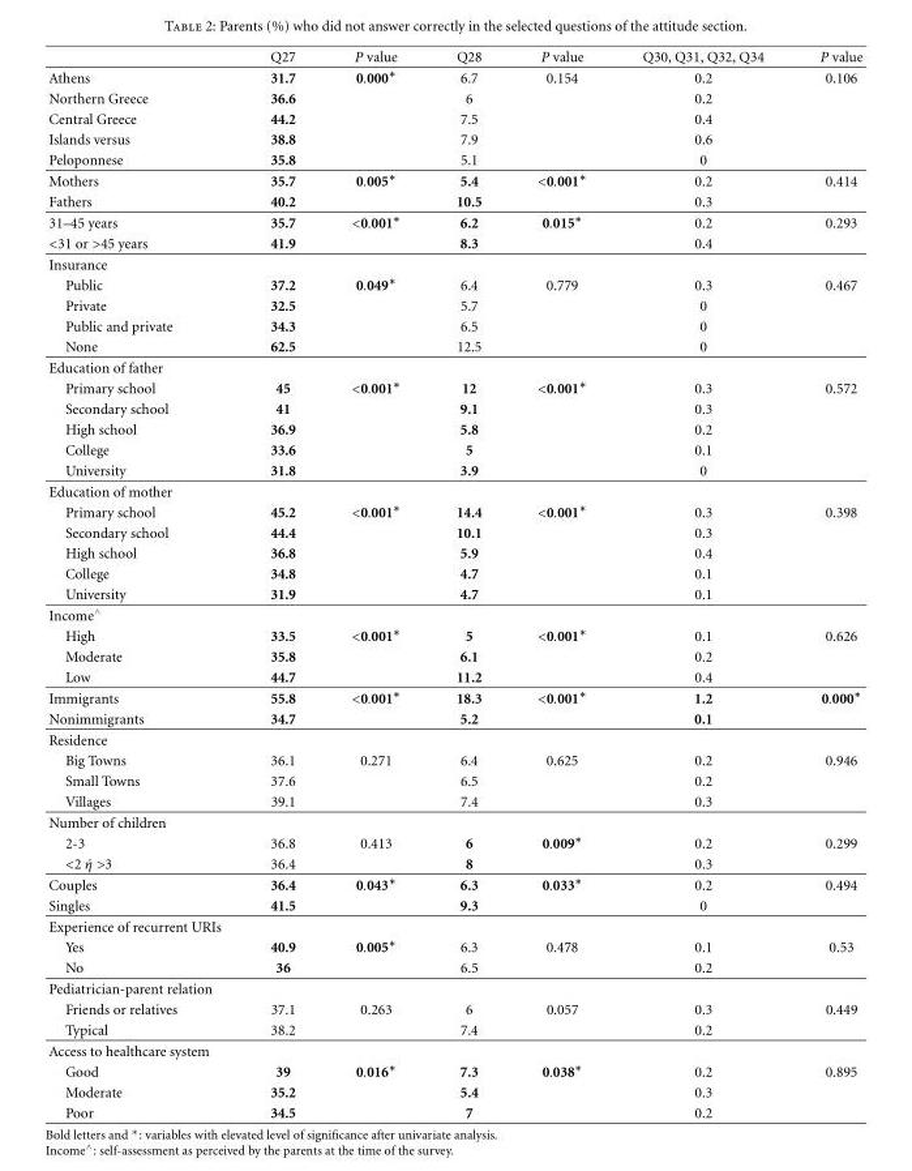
<table><thead><tr><td></td><td>Q27</td><td>P value</td><td>Q28</td><td>P value</td><td>Q30, Q31, Q32, Q34</td><td>P value</td></tr></thead><tbody><tr><td>Athens</td><td>31.7</td><td>0.000∗</td><td>6.7</td><td>0.154</td><td>0.2</td><td>0.106</td></tr><tr><td>Northern Greece</td><td>36.6</td><td></td><td>6</td><td></td><td>0.2</td><td></td></tr><tr><td>Central Greece</td><td>44.2</td><td></td><td>7.5</td><td></td><td>0.4</td><td></td></tr><tr><td>Islands versus</td><td>38.8</td><td></td><td>7.9</td><td></td><td>0.6</td><td></td></tr><tr><td>Peloponnese</td><td>35.8</td><td></td><td>5.1</td><td></td><td>0</td><td></td></tr><tr><td>Mothers</td><td>35.7</td><td>0.005∗</td><td>5.4</td><td>&lt;0.001∗</td><td>0.2</td><td>0.414</td></tr><tr><td>Fathers</td><td>40.2</td><td></td><td>10.5</td><td></td><td>0.3</td><td></td></tr><tr><td>31–45 years</td><td>35.7</td><td>&lt;0.001∗</td><td>6.2</td><td>0.015∗</td><td>0.2</td><td>0.293</td></tr><tr><td>&lt;31 or &gt;45 years</td><td>41.9</td><td></td><td>8.3</td><td></td><td>0.4</td><td></td></tr><tr><td colspan="7">Insurance</td></tr><tr><td>Public</td><td>37.2</td><td>0.049∗</td><td>6.4</td><td>0.779</td><td>0.3</td><td>0.467</td></tr><tr><td>Private</td><td>32.5</td><td></td><td>5.7</td><td></td><td>0</td><td></td></tr><tr><td>Public and private</td><td>34.3</td><td></td><td>6.5</td><td></td><td>0</td><td></td></tr><tr><td>None</td><td>62.5</td><td></td><td>12.5</td><td></td><td>0</td><td></td></tr><tr><td colspan="7">Education of father</td></tr><tr><td>Primary school</td><td>45</td><td>&lt;0.001∗</td><td>12</td><td>&lt;0.001∗</td><td>0.3</td><td>0.572</td></tr><tr><td>Secondary school</td><td>41</td><td></td><td>9.1</td><td></td><td>0.3</td><td></td></tr><tr><td>High school</td><td>36.9</td><td></td><td>5.8</td><td></td><td>0.2</td><td></td></tr><tr><td>College</td><td>33.6</td><td></td><td>5</td><td></td><td>0.1</td><td></td></tr><tr><td>University</td><td>31.8</td><td></td><td>3.9</td><td></td><td>0</td><td></td></tr><tr><td colspan="7">Education of mother</td></tr><tr><td>Primary school</td><td>45.2</td><td>&lt;0.001∗</td><td>14.4</td><td>&lt;0.001∗</td><td>0.3</td><td>0.398</td></tr><tr><td>Secondary school</td><td>44.4</td><td></td><td>10.1</td><td></td><td>0.3</td><td></td></tr><tr><td>High school</td><td>36.8</td><td></td><td>5.9</td><td></td><td>0.4</td><td></td></tr><tr><td>College</td><td>34.8</td><td></td><td>4.7</td><td></td><td>0.1</td><td></td></tr><tr><td>University</td><td>31.9</td><td></td><td>4.7</td><td></td><td>0.1</td><td></td></tr><tr><td colspan="7">Income<sup>∧</sup></td></tr><tr><td>High</td><td>33.5</td><td>&lt;0.001∗</td><td>5</td><td>&lt;0.001∗</td><td>0.1</td><td>0.626</td></tr><tr><td>Moderate</td><td>35.8</td><td></td><td>6.1</td><td></td><td>0.2</td><td></td></tr><tr><td>Low</td><td>44.7</td><td></td><td>11.2</td><td></td><td>0.4</td><td></td></tr><tr><td>Immigrants</td><td>55.8</td><td>&lt;0.001∗</td><td>18.3</td><td>&lt;0.001∗</td><td>1.2</td><td>0.000∗</td></tr><tr><td>Nonimmigrants</td><td>34.7</td><td></td><td>5.2</td><td></td><td>0.1</td><td></td></tr><tr><td colspan="7">Residence</td></tr><tr><td>Big Towns</td><td>36.1</td><td>0.271</td><td>6.4</td><td>0.625</td><td>0.2</td><td>0.946</td></tr><tr><td>Small Towns</td><td>37.6</td><td></td><td>6.5</td><td></td><td>0.2</td><td></td></tr><tr><td>Villages</td><td>39.1</td><td></td><td>7.4</td><td></td><td>0.3</td><td></td></tr><tr><td colspan="7">Number of children</td></tr><tr><td>2-3</td><td>36.8</td><td>0.413</td><td>6</td><td>0.009∗</td><td>0.2</td><td>0.299</td></tr><tr><td>&lt;2 ´η &gt;3</td><td>36.4</td><td></td><td>8</td><td></td><td>0.3</td><td></td></tr><tr><td>Couples</td><td>36.4</td><td>0.043∗</td><td>6.3</td><td>0.033∗</td><td>0.2</td><td>0.494</td></tr><tr><td>Singles</td><td>41.5</td><td></td><td>9.3</td><td></td><td>0</td><td></td></tr><tr><td colspan="7">Experience of recurrent URIs</td></tr><tr><td>Yes</td><td>40.9</td><td>0.005∗</td><td>6.3</td><td>0.478</td><td>0.1</td><td>0.53</td></tr><tr><td>No</td><td>36</td><td></td><td>6.5</td><td></td><td>0.2</td><td></td></tr><tr><td colspan="7">Pediatrician-parent relation</td></tr><tr><td>Friends or relatives</td><td>37.1</td><td>0.263</td><td>6</td><td>0.057</td><td>0.3</td><td>0.449</td></tr><tr><td>Typical</td><td>38.2</td><td></td><td>7.4</td><td></td><td>0.2</td><td></td></tr><tr><td colspan="7">Access to healthcare system</td></tr><tr><td>Good</td><td>39</td><td>0.016∗</td><td>7.3</td><td>0.038∗</td><td>0.2</td><td>0.895</td></tr><tr><td>Moderate</td><td>35.2</td><td></td><td>5.4</td><td></td><td>0.3</td><td></td></tr><tr><td>Poor</td><td>34.5</td><td></td><td>7</td><td></td><td>0.2</td><td></td></tr></tbody></table>